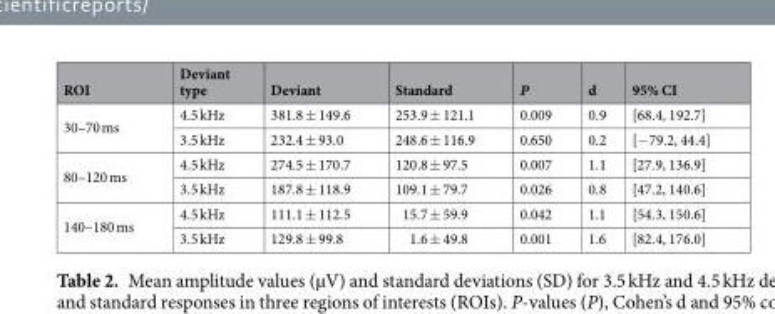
<table><thead><tr><td>ROI</td><td>Deviant type</td><td>Deviant</td><td>Standard</td><td>P</td><td>d</td><td>95% CI</td></tr></thead><tbody><tr><td rowspan="2">30–70 ms</td><td>4.5 kHz</td><td>381.8 ± 149.6</td><td>253.9 ± 121.1</td><td>0.009</td><td>0.9</td><td>[68.4, 192.7]</td></tr><tr><td>3.5 kHz</td><td>232.4 ± 93.0</td><td>248.6 ± 116.9</td><td>0.650</td><td>0.2</td><td>[−79.2, 44.4]</td></tr><tr><td rowspan="2">80–120 ms</td><td>4.5 kHz</td><td>274.5 ± 170.7</td><td>120.8 ± 97.5</td><td>0.007</td><td>1.1</td><td>[27.9, 136.9]</td></tr><tr><td>3.5 kHz</td><td>187.8 ± 118.9</td><td>109.1 ± 79.7</td><td>0.026</td><td>0.8</td><td>[47.2, 140.6]</td></tr><tr><td rowspan="2">140–180 ms</td><td>4.5 kHz</td><td>111.1 ± 112.5</td><td>15.7 ± 59.9</td><td>0.042</td><td>1.1</td><td>[54.3, 150.6]</td></tr><tr><td>3.5 kHz</td><td>129.8 ± 99.8</td><td>1.6 ± 49.8</td><td>0.001</td><td>1.6</td><td>[82.4, 176.0]</td></tr></tbody></table>